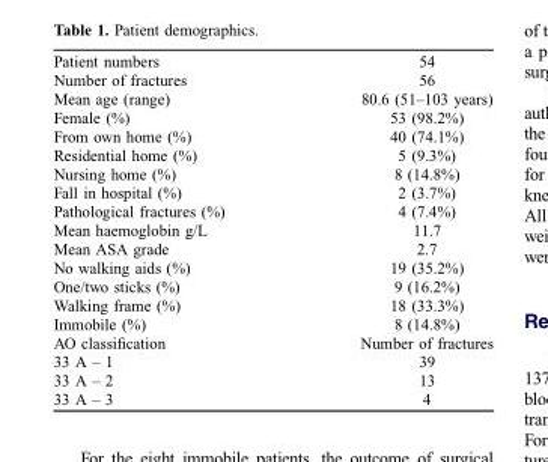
<table><tbody><tr><td>Patient numbers</td><td>54</td></tr><tr><td>Number of fractures</td><td>56</td></tr><tr><td>Mean age (range)</td><td>80.6 (51–103 years)</td></tr><tr><td>Female (%)</td><td>53 (98.2%)</td></tr><tr><td>From own home (%)</td><td>40 (74.1%)</td></tr><tr><td>Residential home (%)</td><td>5 (9.3%)</td></tr><tr><td>Nursing home (%)</td><td>8 (14.8%)</td></tr><tr><td>Fall in hospital (%)</td><td>2 (3.7%)</td></tr><tr><td>Pathological fractures (%)</td><td>4 (7.4%)</td></tr><tr><td>Mean haemoglobin g/L</td><td>11.7</td></tr><tr><td>Mean ASA grade</td><td>2.7</td></tr><tr><td>No walking aids (%)</td><td>19 (35.2%)</td></tr><tr><td>One/two sticks (%)</td><td>9 (16.2%)</td></tr><tr><td>Walking frame (%)</td><td>18 (33.3%)</td></tr><tr><td>Immobile (%)</td><td>8 (14.8%)</td></tr><tr><td>AO classification</td><td>Number of fractures</td></tr><tr><td>33 A – 1</td><td>39</td></tr><tr><td>33 A – 2</td><td>13</td></tr><tr><td>33 A – 3</td><td>4</td></tr></tbody></table>